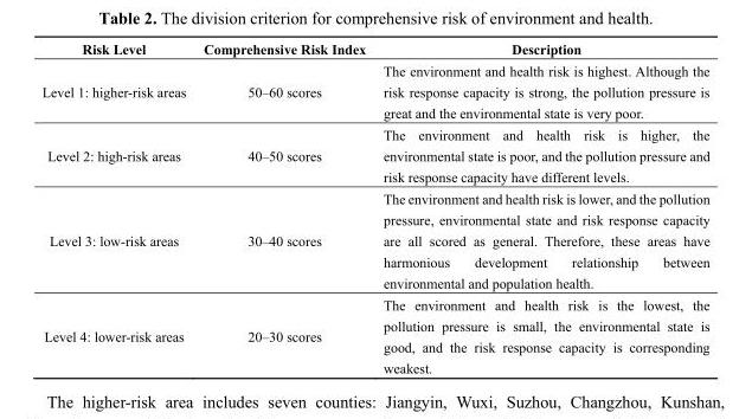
<table><thead><tr><td>Risk Level</td><td>Comprehensive Risk Index</td><td>Description</td></tr></thead><tbody><tr><td>Level 1: higher-risk areas</td><td>50–60 scores</td><td>The environment and health risk is highest. Although the risk response capacity is strong, the pollution pressure is great and the environmental state is very poor.</td></tr><tr><td>Level 2: high-risk areas</td><td>40–50 scores</td><td>The environment and health risk is higher, the environmental state is poor, and the pollution pressure and risk response capacity have different levels.</td></tr><tr><td>Level 3: low-risk areas</td><td>30–40 scores</td><td>The environment and health risk is lower, and the pollution pressure, environmental state and risk response capacity are all scored as general. Therefore, these areas have harmonious development relationship between environmental and population health.</td></tr><tr><td>Level 4: lower-risk areas</td><td>20–30 scores</td><td>The environment and health risk is the lowest, the pollution pressure is small, the environmental state is good, and the risk response capacity is corresponding weakest.</td></tr></tbody></table>